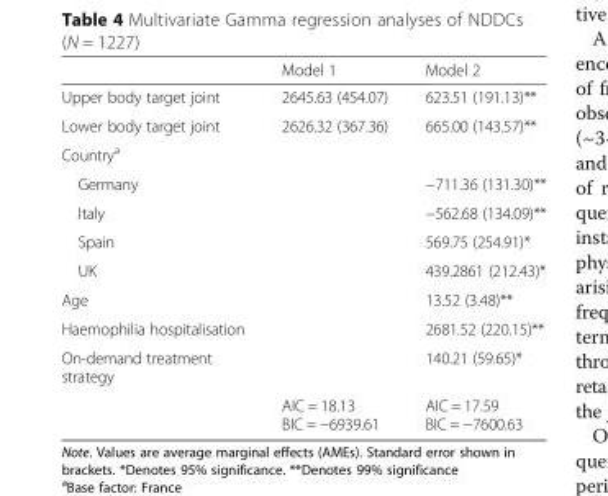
<table><thead><tr><td></td><td>Model 1</td><td>Model 2</td></tr></thead><tbody><tr><td>Upper body target joint</td><td>2645.63 (454.07)</td><td>623.51 (191.13)**</td></tr><tr><td>Lower body target joint</td><td>2626.32 (367.36)</td><td>665.00 (143.57)**</td></tr><tr><td colspan="3">Country<sup>a</sup></td></tr><tr><td>Germany</td><td></td><td>−711.36 (131.30)**</td></tr><tr><td>Italy</td><td></td><td>−562.68 (134.09)**</td></tr><tr><td>Spain</td><td></td><td>569.75 (254.91)*</td></tr><tr><td>UK</td><td></td><td>439.2861 (212.43)*</td></tr><tr><td>Age</td><td></td><td>13.52 (3.48)**</td></tr><tr><td>Haemophilia hospitalisation</td><td></td><td>2681.52 (220.15)**</td></tr><tr><td rowspan="2">On-demand treatment strategy</td><td></td><td>140.21 (59.65)*</td></tr><tr><td>AIC = 18.13 BIC = −6939.61</td><td>AIC = 17.59 BIC = −7600.63</td></tr></tbody></table>